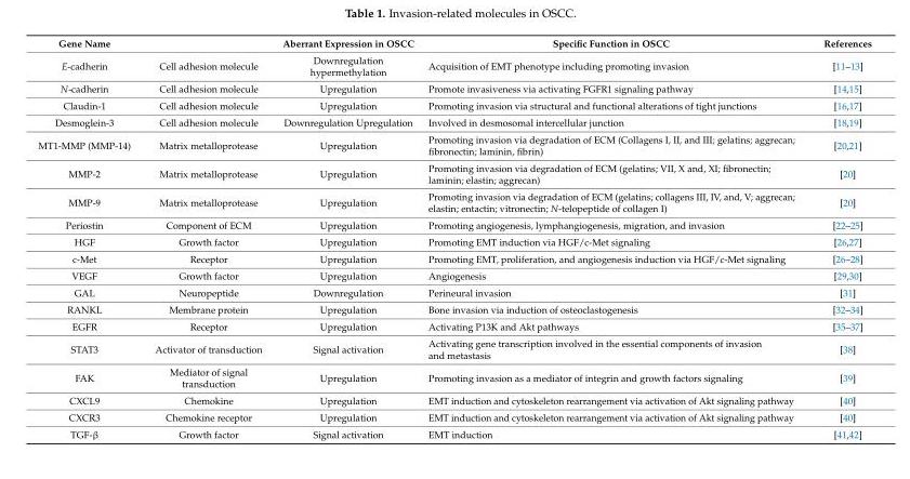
<table><thead><tr><td>Gene Name</td><td></td><td>Aberrant Expression in OSCC</td><td>Specific Function in OSCC</td><td>References</td></tr></thead><tbody><tr><td>E-cadherin</td><td>Cell adhesion molecule</td><td>Downregulation hypermethylation</td><td>Acquisition of EMT phenotype including promoting invasion</td><td>[11–13]</td></tr><tr><td>N-cadherin</td><td>Cell adhesion molecule</td><td>Upregulation</td><td>Promote invasiveness via activating FGFR1 signaling pathway</td><td>[14,15]</td></tr><tr><td>Claudin-1</td><td>Cell adhesion molecule</td><td>Upregulation</td><td>Promoting invasion via structural and functional alterations of tight junctions</td><td>[16,17]</td></tr><tr><td>Desmoglein-3</td><td>Cell adhesion molecule</td><td>Downregulation Upregulation</td><td>Involved in desmosomal intercellular junction</td><td>[18,19]</td></tr><tr><td>MT1-MMP (MMP-14)</td><td>Matrix metalloprotease</td><td>Upregulation</td><td>Promoting invasion via degradation of ECM (Collagens I, II, and III; gelatins; aggrecan; fibronectin; laminin, fibrin)</td><td>[20,21]</td></tr><tr><td>MMP-2</td><td>Matrix metalloprotease</td><td>Upregulation</td><td>Promoting invasion via degradation of ECM (gelatins; VII, X and, XI; fibronectin; laminin; elastin; aggrecan)</td><td>[20]</td></tr><tr><td>MMP-9</td><td>Matrix metalloprotease</td><td>Upregulation</td><td>Promoting invasion via degradation of ECM (gelatins; collagens III, IV, and, V; aggrecan; elastin; entactin; vitronectin; N-telopeptide of collagen I)</td><td>[20]</td></tr><tr><td>Periostin</td><td>Component of ECM</td><td>Upregulation</td><td>Promoting angiogenesis, lymphangiogenesis, migration, and invasion</td><td>[22–25]</td></tr><tr><td>HGF</td><td>Growth factor</td><td>Upregulation</td><td>Promoting EMT induction via HGF/c-Met signaling</td><td>[26,27]</td></tr><tr><td>c-Met</td><td>Receptor</td><td>Upregulation</td><td>Promoting EMT, proliferation, and angiogenesis induction via HGF/c-Met signaling</td><td>[26–28]</td></tr><tr><td>VEGF</td><td>Growth factor</td><td>Upregulation</td><td>Angiogenesis</td><td>[29,30]</td></tr><tr><td>GAL</td><td>Neuropeptide</td><td>Downregulation</td><td>Perineural invasion</td><td>[31]</td></tr><tr><td>RANKL</td><td>Membrane protein</td><td>Upregulation</td><td>Bone invasion via induction of osteoclastogenesis</td><td>[32–34]</td></tr><tr><td>EGFR</td><td>Receptor</td><td>Upregulation</td><td>Activating P13K and Akt pathways</td><td>[35–37]</td></tr><tr><td>STAT3</td><td>Activator of transduction</td><td>Signal activation</td><td>Activating gene transcription involved in the essential components of invasion and metastasis</td><td>[38]</td></tr><tr><td>FAK</td><td>Mediator of signal transduction</td><td>Upregulation</td><td>Promoting invasion as a mediator of integrin and growth factors signaling</td><td>[39]</td></tr><tr><td>CXCL9</td><td>Chemokine</td><td>Upregulation</td><td>EMT induction and cytoskeleton rearrangement via activation of Akt signaling pathway</td><td>[40]</td></tr><tr><td>CXCR3</td><td>Chemokine receptor</td><td>Upregulation</td><td>EMT induction and cytoskeleton rearrangement via activation of Akt signaling pathway</td><td>[40]</td></tr><tr><td>TGF-β</td><td>Growth factor</td><td>Signal activation</td><td>EMT induction</td><td>[41,42]</td></tr></tbody></table>